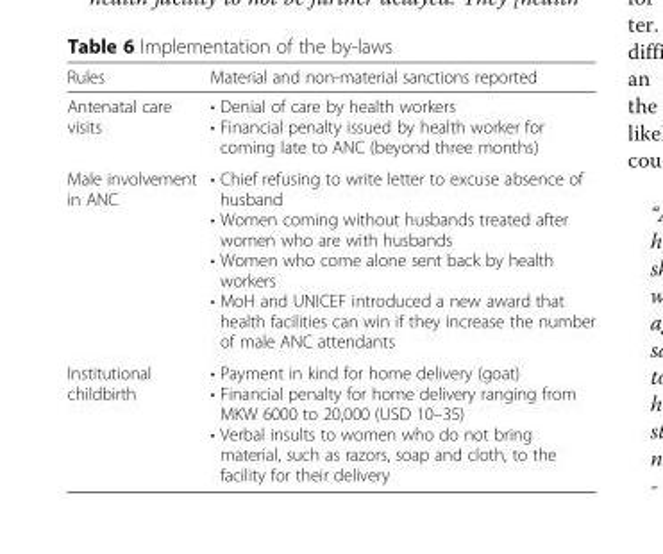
<table><thead><tr><td>Rules</td><td>Material and non-material sanctions reported</td></tr></thead><tbody><tr><td>Antenatal care visits</td><td>• Denial of care by health workers • Financial penalty issued by health worker for coming late to ANC (beyond three months)</td></tr><tr><td>Male involvement in ANC</td><td>• Chief refusing to write letter to excuse absence of husband • Women coming without husbands treated after women who are with husbands • Women who come alone sent back by health workers • MoH and UNICEF introduced a new award that health facilities can win if they increase the number of male ANC attendants</td></tr><tr><td>Institutional childbirth</td><td>• Payment in kind for home delivery (goat) • Financial penalty for home delivery ranging from MKW 6000 to 20,000 (USD 10–35) • Verbal insults to women who do not bring material, such as razors, soap and cloth, to the facility for their delivery</td></tr></tbody></table>